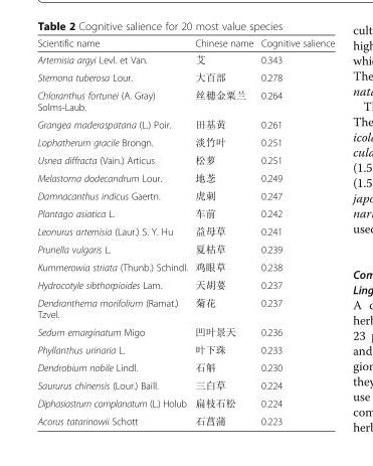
<table><thead><tr><td>Scientific name</td><td>Chinese name</td><td>Cognitive salience</td></tr></thead><tbody><tr><td>Artemisia argyi Levl. et Van.</td><td>艾</td><td>0.343</td></tr><tr><td>Stemona tuberosa Lour.</td><td>大百部</td><td>0.278</td></tr><tr><td>Chloranthus fortunei (A. Gray) Solms-Laub.</td><td>丝穗金粟兰</td><td>0.264</td></tr><tr><td>Grangea maderaspatana (L.) Poir.</td><td>田基黄</td><td>0.261</td></tr><tr><td>Lophatherum gracile Brongn.</td><td>淡竹叶</td><td>0.251</td></tr><tr><td>Usnea diffracta (Vain.) Articus</td><td>松萝</td><td>0.251</td></tr><tr><td>Melastoma dodecandrum Lour.</td><td>地菍</td><td>0.249</td></tr><tr><td>Damnacanthus indicus Gaertn.</td><td>虎刺</td><td>0.247</td></tr><tr><td>Plantago asiatica L.</td><td>车前</td><td>0.242</td></tr><tr><td>Leonurus artemisia (Laur.) S. Y. Hu</td><td>益母草</td><td>0.241</td></tr><tr><td>Prunella vulgaris L.</td><td>夏枯草</td><td>0.239</td></tr><tr><td>Kummerowia striata (Thunb.) Schindl.</td><td>鸡眼草</td><td>0.238</td></tr><tr><td>Hydrocotyle sibthorpioides Lam.</td><td>天胡荽</td><td>0.237</td></tr><tr><td>Dendranthema morifolium (Ramat.) Tzvel.</td><td>菊花</td><td>0.237</td></tr><tr><td>Sedum emarginatum Migo</td><td>凹叶景天</td><td>0.236</td></tr><tr><td>Phyllanthus urinaria L.</td><td>叶下珠</td><td>0.233</td></tr><tr><td>Dendrobium nobile Lindl.</td><td>石斛</td><td>0.230</td></tr><tr><td>Saururus chinensis (Lour.) Baill.</td><td>三白草</td><td>0.224</td></tr><tr><td>Diphasiastrum complanatum (L.) Holub</td><td>扁枝石松</td><td>0.224</td></tr><tr><td>Acorus tatarinowii Schott</td><td>石菖蒲</td><td>0.223</td></tr></tbody></table>